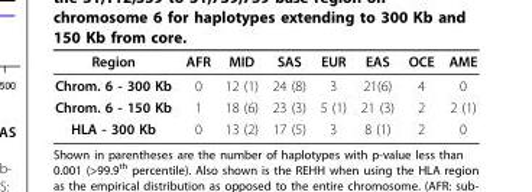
<table><thead><tr><td>Region</td><td>AFR</td><td>MID</td><td>SAS</td><td>EUR</td><td>EAS</td><td>OCE</td><td>AME</td></tr></thead><tbody><tr><td>Chrom. 6 - 300 Kb</td><td>0</td><td>12 (1)</td><td>24 (8)</td><td>3</td><td>21(6)</td><td>4</td><td>0</td></tr><tr><td>Chrom. 6 - 150 Kb</td><td>1</td><td>18 (6)</td><td>23 (3)</td><td>5 (1)</td><td>21 (3)</td><td>2</td><td>2 (1)</td></tr><tr><td>HLA - 300 Kb</td><td>0</td><td>13 (2)</td><td>17 (5)</td><td>3</td><td>8 (1)</td><td>2</td><td>0</td></tr></tbody></table>